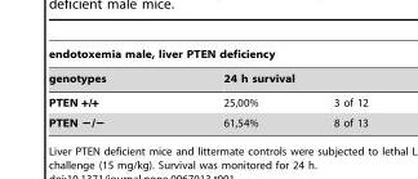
<table><thead><tr><td colspan="3">endotoxemia male, liver PTEN deficiency</td></tr><tr><td rowspan="2">genotypes PTEN +/+</td><td colspan="2">24 h survival</td></tr><tr><td>25,00%</td><td>3 of 12</td></tr></thead><tbody><tr><td>PTEN −/−</td><td>61,54%</td><td>8 of 13</td></tr></tbody></table>